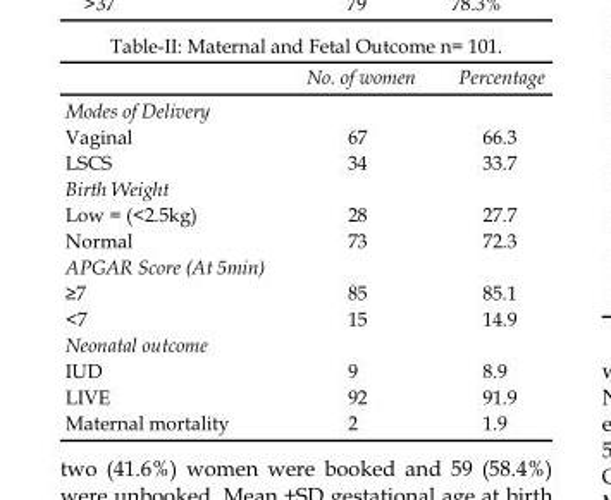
<table><thead><tr><td></td><td>No. of women</td><td>Percentage</td></tr></thead><tbody><tr><td colspan="3">Modes of Delivery</td></tr><tr><td>Vaginal</td><td>67</td><td>66.3</td></tr><tr><td>LSCS</td><td>34</td><td>33.7</td></tr><tr><td colspan="3">Birth Weight</td></tr><tr><td>Low = (&lt;2.5kg)</td><td>28</td><td>27.7</td></tr><tr><td>Normal</td><td>73</td><td>72.3</td></tr><tr><td colspan="3">APGAR Score (At 5min)</td></tr><tr><td>≥7</td><td>85</td><td>85.1</td></tr><tr><td>&lt;7</td><td>15</td><td>14.9</td></tr><tr><td colspan="3">Neonatal outcome</td></tr><tr><td>IUD</td><td>9</td><td>8.9</td></tr><tr><td>LIVE</td><td>92</td><td>91.9</td></tr><tr><td>Maternal mortality</td><td>2</td><td>1.9</td></tr></tbody></table>